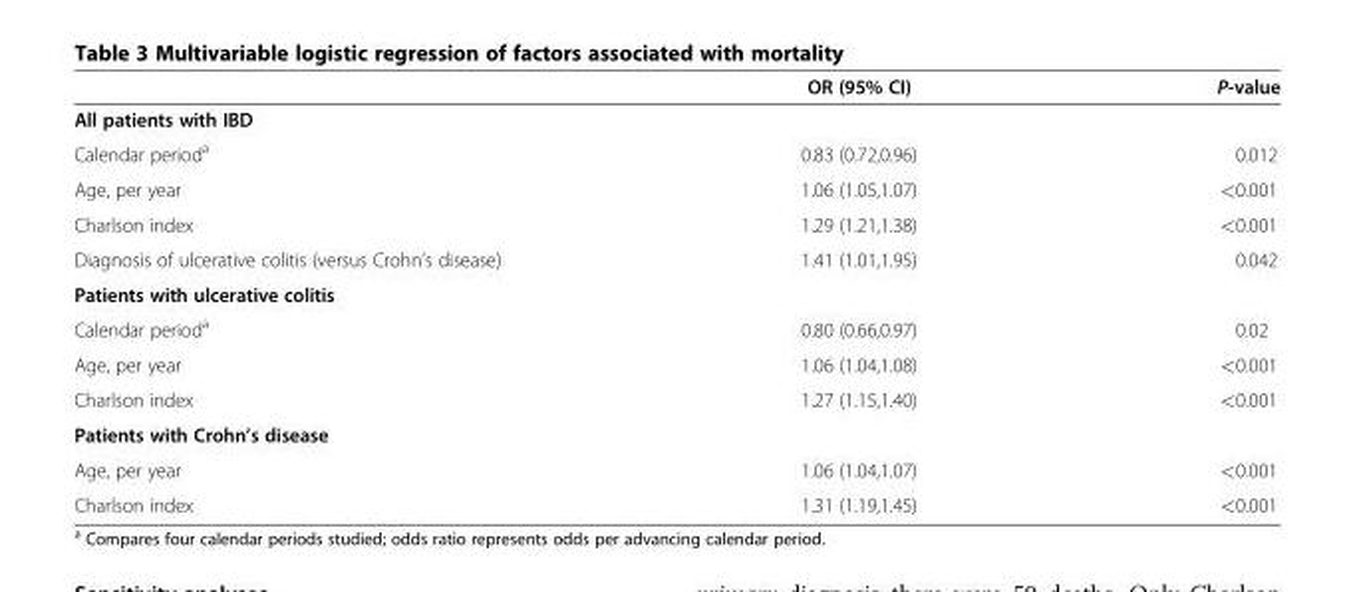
<table><thead><tr><td></td><td>OR (95% CI)</td><td>P-value</td></tr></thead><tbody><tr><td colspan="3">All patients with IBD</td></tr><tr><td>Calendar period<sup>a</sup></td><td>0.83 (0.72,0.96)</td><td>0.012</td></tr><tr><td>Age, per year</td><td>1.06 (1.05,1.07)</td><td>&lt;0.001</td></tr><tr><td>Charlson index</td><td>1.29 (1.21,1.38)</td><td>&lt;0.001</td></tr><tr><td>Diagnosis of ulcerative colitis (versus Crohn’s disease)</td><td>1.41 (1.01,1.95)</td><td>0.042</td></tr><tr><td colspan="3">Patients with ulcerative colitis</td></tr><tr><td>Calendar period<sup>a</sup></td><td>0.80 (0.66,0.97)</td><td>0.02</td></tr><tr><td>Age, per year</td><td>1.06 (1.04,1.08)</td><td>&lt;0.001</td></tr><tr><td>Charlson index</td><td>1.27 (1.15,1.40)</td><td>&lt;0.001</td></tr><tr><td colspan="3">Patients with Crohn’s disease</td></tr><tr><td>Age, per year</td><td>1.06 (1.04,1.07)</td><td>&lt;0.001</td></tr><tr><td>Charlson index</td><td>1.31 (1.19,1.45)</td><td>&lt;0.001</td></tr></tbody></table>